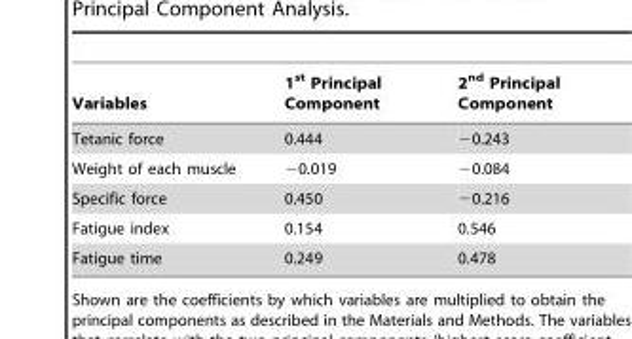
<table><thead><tr><td>Variables</td><td>1<sup>st</sup> Principal Component</td><td>2<sup>nd</sup> Principal Component</td></tr></thead><tbody><tr><td>Tetanic force</td><td>0.444</td><td>−0.243</td></tr><tr><td>Weight of each muscle</td><td>−0.019</td><td>−0.084</td></tr><tr><td>Specific force</td><td>0.450</td><td>−0.216</td></tr><tr><td>Fatigue index</td><td>0.154</td><td>0.546</td></tr><tr><td>Fatigue time</td><td>0.249</td><td>0.478</td></tr></tbody></table>